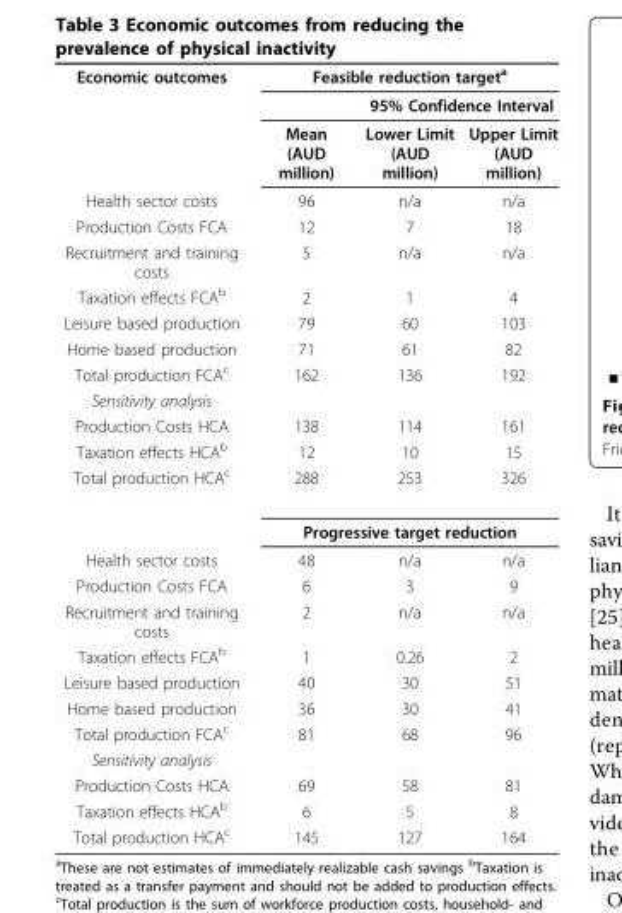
<table><tbody><tr><td rowspan="3">Economic outcomes</td><td colspan="3">Feasible reduction target<sup>a</sup></td></tr><tr><td></td><td colspan="2">95% Confidence Interval</td></tr><tr><td>Mean (AUD million)</td><td>Lower Limit (AUD million)</td><td>Upper Limit (AUD million)</td></tr><tr><td>Health sector costs</td><td>96</td><td>n/a</td><td>n/a</td></tr><tr><td>Production Costs FCA</td><td>12</td><td>7</td><td>18</td></tr><tr><td>Recruitment and training costs</td><td>5</td><td>n/a</td><td>n/a</td></tr><tr><td>Taxation effects FCA<sup>b</sup></td><td>2</td><td>1</td><td>4</td></tr><tr><td>Leisure based production</td><td>79</td><td>60</td><td>103</td></tr><tr><td>Home based production</td><td>71</td><td>61</td><td>82</td></tr><tr><td>Total production FCA<sup>c</sup></td><td>162</td><td>136</td><td>192</td></tr><tr><td colspan="4">Sensitivity analysis</td></tr><tr><td>Production Costs HCA</td><td>138</td><td>114</td><td>161</td></tr><tr><td>Taxation effects HCA<sup>b</sup></td><td>12</td><td>10</td><td>15</td></tr><tr><td rowspan="2">Total production HCA<sup>c</sup></td><td>288</td><td>253</td><td>326</td></tr><tr><td colspan="3">Progressive target reduction</td></tr><tr><td>Health sector costs</td><td>48</td><td>n/a</td><td>n/a</td></tr><tr><td>Production Costs FCA</td><td>6</td><td>3</td><td>9</td></tr><tr><td>Recruitment and training costs</td><td>2</td><td>n/a</td><td>n/a</td></tr><tr><td>Taxation effects FCA<sup>b</sup></td><td>1</td><td>0.26</td><td>2</td></tr><tr><td>Leisure based production</td><td>40</td><td>30</td><td>51</td></tr><tr><td>Home based production</td><td>36</td><td>30</td><td>41</td></tr><tr><td>Total production FCA<sup>c</sup></td><td>81</td><td>68</td><td>96</td></tr><tr><td colspan="4">Sensitivity analysis</td></tr><tr><td>Production Costs HCA</td><td>69</td><td>58</td><td>81</td></tr><tr><td>Taxation effects HCA<sup>b</sup></td><td>6</td><td>5</td><td>8</td></tr><tr><td>Total production HCA<sup>c</sup></td><td>145</td><td>127</td><td>164</td></tr></tbody></table>